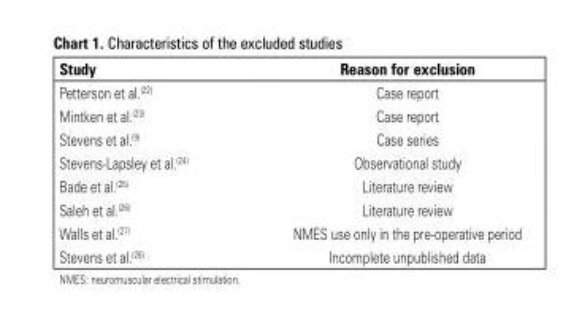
<table><thead><tr><td>Study</td><td>Reason for exclusion</td></tr></thead><tbody><tr><td>Petterson et al.<sup>(22)</sup></td><td>Case report</td></tr><tr><td>Mintken et al.<sup>(23)</sup></td><td>Case report</td></tr><tr><td>Stevens et al.<sup>(9)</sup></td><td>Case series</td></tr><tr><td>Stevens-Lapsley et al.<sup>(24)</sup></td><td>Observational study</td></tr><tr><td>Bade et al.<sup>(25)</sup></td><td>Literature review</td></tr><tr><td>Saleh et al.<sup>(26)</sup></td><td>Literature review</td></tr><tr><td>Walls et al.<sup>(27)</sup></td><td>NMES use only in the pre-operative period</td></tr><tr><td>Stevens et al.<sup>(28)</sup></td><td>Incomplete unpublished data</td></tr></tbody></table>